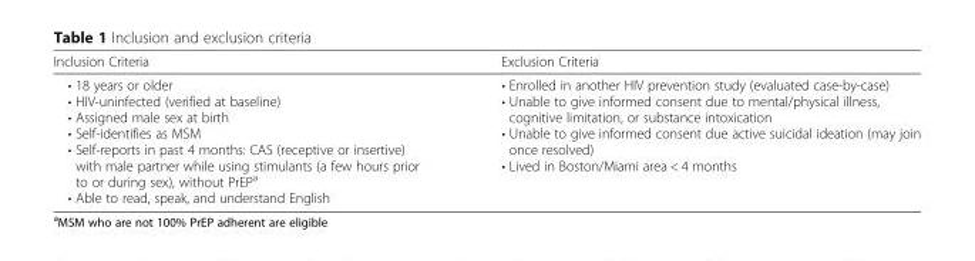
<table><thead><tr><td>Inclusion Criteria</td><td>Exclusion Criteria</td></tr></thead><tbody><tr><td>• 18 years or older • HIV-uninfected (verified at baseline) • Assigned male sex at birth • Self-identifies as MSM • Self-reports in past 4 months: CAS (receptive or insertive) with male partner while using stimulants (a few hours prior to or during sex), without PrEP<sup>a</sup> • Able to read, speak, and understand English</td><td>• Enrolled in another HIV prevention study (evaluated case-by-case) • Unable to give informed consent due to mental/physical illness, cognitive limitation, or substance intoxication • Unable to give informed consent due active suicidal ideation (may join once resolved) • Lived in Boston/Miami area &lt; 4 months</td></tr></tbody></table>